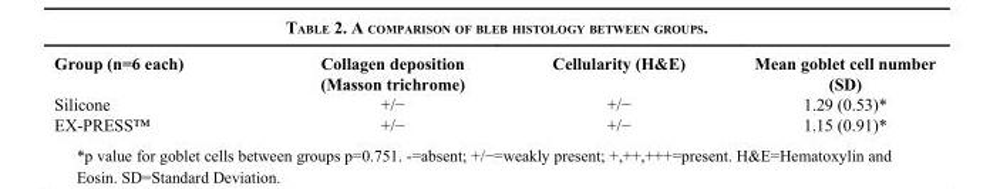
<table><thead><tr><td>Group (n=6 each)</td><td>Collagen deposition (Masson trichrome)</td><td>Cellularity (H&amp;E)</td><td>Mean goblet cell number (SD)</td></tr></thead><tbody><tr><td>Silicone</td><td>+/−</td><td>+/−</td><td>1.29 (0.53)*</td></tr><tr><td>EX-PRESS™</td><td>+/−</td><td>+/−</td><td>1.15 (0.91)*</td></tr></tbody></table>